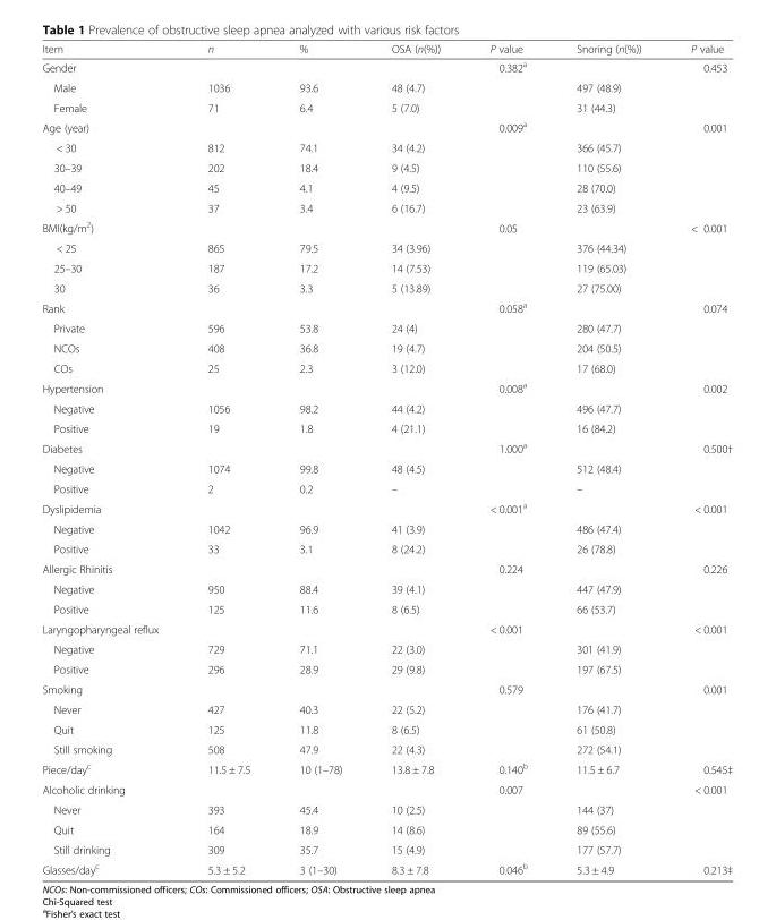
<table><thead><tr><td>Item</td><td>n</td><td>%</td><td>OSA (n(%))</td><td>P value</td><td>Snoring (n(%))</td><td>P value</td></tr></thead><tbody><tr><td>Gender</td><td></td><td></td><td></td><td>0.382<sup>a</sup></td><td></td><td>0.453</td></tr><tr><td>Male</td><td>1036</td><td>93.6</td><td>48 (4.7)</td><td></td><td>497 (48.9)</td><td></td></tr><tr><td>Female</td><td>71</td><td>6.4</td><td>5 (7.0)</td><td></td><td>31 (44.3)</td><td></td></tr><tr><td>Age (year)</td><td></td><td></td><td></td><td>0.009<sup>a</sup></td><td></td><td>0.001</td></tr><tr><td>&lt; 30</td><td>812</td><td>74.1</td><td>34 (4.2)</td><td></td><td>366 (45.7)</td><td></td></tr><tr><td>30–39</td><td>202</td><td>18.4</td><td>9 (4.5)</td><td></td><td>110 (55.6)</td><td></td></tr><tr><td>40–49</td><td>45</td><td>4.1</td><td>4 (9.5)</td><td></td><td>28 (70.0)</td><td></td></tr><tr><td>&gt; 50</td><td>37</td><td>3.4</td><td>6 (16.7)</td><td></td><td>23 (63.9)</td><td></td></tr><tr><td>BMI(kg/m<sup>2</sup>)</td><td></td><td></td><td></td><td>0.05</td><td></td><td>&lt; 0.001</td></tr><tr><td>&lt; 25</td><td>865</td><td>79.5</td><td>34 (3.96)</td><td></td><td>376 (44.34)</td><td></td></tr><tr><td>25–30</td><td>187</td><td>17.2</td><td>14 (7.53)</td><td></td><td>119 (65.03)</td><td></td></tr><tr><td>30</td><td>36</td><td>3.3</td><td>5 (13.89)</td><td></td><td>27 (75.00)</td><td></td></tr><tr><td>Rank</td><td></td><td></td><td></td><td>0.058<sup>a</sup></td><td></td><td>0.074</td></tr><tr><td>Private</td><td>596</td><td>53.8</td><td>24 (4)</td><td></td><td>280 (47.7)</td><td></td></tr><tr><td>NCOs</td><td>408</td><td>36.8</td><td>19 (4.7)</td><td></td><td>204 (50.5)</td><td></td></tr><tr><td>COs</td><td>25</td><td>2.3</td><td>3 (12.0)</td><td></td><td>17 (68.0)</td><td></td></tr><tr><td>Hypertension</td><td></td><td></td><td></td><td>0.008<sup>a</sup></td><td></td><td>0.002</td></tr><tr><td>Negative</td><td>1056</td><td>98.2</td><td>44 (4.2)</td><td></td><td>496 (47.7)</td><td></td></tr><tr><td>Positive</td><td>19</td><td>1.8</td><td>4 (21.1)</td><td></td><td>16 (84.2)</td><td></td></tr><tr><td>Diabetes</td><td></td><td></td><td></td><td>1.000<sup>a</sup></td><td></td><td>0.500†</td></tr><tr><td>Negative</td><td>1074</td><td>99.8</td><td>48 (4.5)</td><td></td><td>512 (48.4)</td><td></td></tr><tr><td>Positive</td><td>2</td><td>0.2</td><td>–</td><td></td><td>–</td><td></td></tr><tr><td>Dyslipidemia</td><td></td><td></td><td></td><td>&lt; 0.001<sup>a</sup></td><td></td><td>&lt; 0.001</td></tr><tr><td>Negative</td><td>1042</td><td>96.9</td><td>41 (3.9)</td><td></td><td>486 (47.4)</td><td></td></tr><tr><td>Positive</td><td>33</td><td>3.1</td><td>8 (24.2)</td><td></td><td>26 (78.8)</td><td></td></tr><tr><td>Allergic Rhinitis</td><td></td><td></td><td></td><td>0.224</td><td></td><td>0.226</td></tr><tr><td>Negative</td><td>950</td><td>88.4</td><td>39 (4.1)</td><td></td><td>447 (47.9)</td><td></td></tr><tr><td>Positive</td><td>125</td><td>11.6</td><td>8 (6.5)</td><td></td><td>66 (53.7)</td><td></td></tr><tr><td>Laryngopharyngeal reflux</td><td></td><td></td><td></td><td>&lt; 0.001</td><td></td><td>&lt; 0.001</td></tr><tr><td>Negative</td><td>729</td><td>71.1</td><td>22 (3.0)</td><td></td><td>301 (41.9)</td><td></td></tr><tr><td>Positive</td><td>296</td><td>28.9</td><td>29 (9.8)</td><td></td><td>197 (67.5)</td><td></td></tr><tr><td>Smoking</td><td></td><td></td><td></td><td>0.579</td><td></td><td>0.001</td></tr><tr><td>Never</td><td>427</td><td>40.3</td><td>22 (5.2)</td><td></td><td>176 (41.7)</td><td></td></tr><tr><td>Quit</td><td>125</td><td>11.8</td><td>8 (6.5)</td><td></td><td>61 (50.8)</td><td></td></tr><tr><td>Still smoking</td><td>508</td><td>47.9</td><td>22 (4.3)</td><td></td><td>272 (54.1)</td><td></td></tr><tr><td>Piece/day<sup>c</sup></td><td>11.5 ± 7.5</td><td>10 (1–78)</td><td>13.8 ± 7.8</td><td>0.140<sup>b</sup></td><td>11.5 ± 6.7</td><td>0.545‡</td></tr><tr><td>Alcoholic drinking</td><td></td><td></td><td></td><td>0.007</td><td></td><td>&lt; 0.001</td></tr><tr><td>Never</td><td>393</td><td>45.4</td><td>10 (2.5)</td><td></td><td>144 (37)</td><td></td></tr><tr><td>Quit</td><td>164</td><td>18.9</td><td>14 (8.6)</td><td></td><td>89 (55.6)</td><td></td></tr><tr><td>Still drinking</td><td>309</td><td>35.7</td><td>15 (4.9)</td><td></td><td>177 (57.7)</td><td></td></tr><tr><td>Glasses/day<sup>c</sup></td><td>5.3 ± 5.2</td><td>3 (1–30)</td><td>8.3 ± 7.8</td><td>0.046<sup>b</sup></td><td>5.3 ± 4.9</td><td>0.213‡</td></tr></tbody></table>